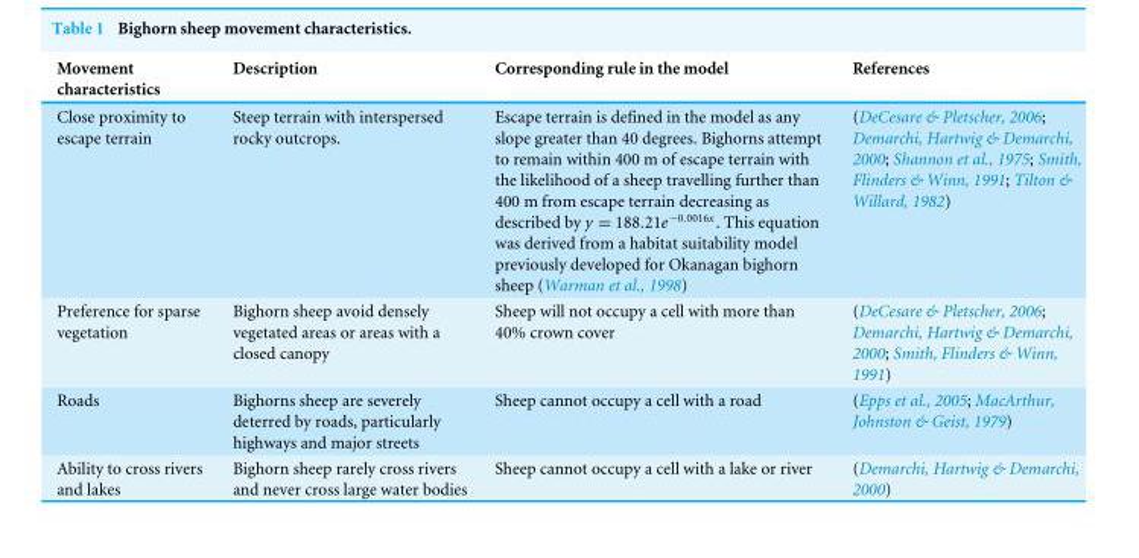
<table><thead><tr><td>Movement characteristics</td><td>Description</td><td>Corresponding rule in the model</td><td>References</td></tr></thead><tbody><tr><td>Close proximity to escape terrain</td><td>Steep terrain with interspersed rocky outcrops.</td><td>Escape terrain is defined in the model as any slope greater than 40 degrees. Bighorns attempt to remain within 400 m of escape terrain with the likelihood of a sheep travelling further than 400 m from escape terrain decreasing as described by y = 188.21e<sup>−0.0016x</sup>. This equation was derived from a habitat suitability model previously developed for Okanagan bighorn sheep (Warman et al., 1998)</td><td>(DeCesare &amp; Pletscher, 2006; Demarchi, Hartwig &amp; Demarchi, 2000; Shannon et al., 1975; Smith, Flinders &amp; Winn, 1991; Tilton &amp; Willard, 1982)</td></tr><tr><td>Preference for sparse vegetation</td><td>Bighorn sheep avoid densely vegetated areas or areas with a closed canopy</td><td>Sheep will not occupy a cell with more than 40% crown cover</td><td>(DeCesare &amp; Pletscher, 2006; Demarchi, Hartwig &amp; Demarchi, 2000; Smith, Flinders &amp; Winn, 1991)</td></tr><tr><td>Roads</td><td>Bighorns sheep are severely deterred by roads, particularly highways and major streets</td><td>Sheep cannot occupy a cell with a road</td><td>(Epps et al., 2005; MacArthur, Johnston &amp; Geist, 1979)</td></tr><tr><td>Ability to cross rivers and lakes</td><td>Bighorn sheep rarely cross rivers and never cross large water bodies</td><td>Sheep cannot occupy a cell with a lake or river</td><td>(Demarchi, Hartwig &amp; Demarchi, 2000)</td></tr></tbody></table>